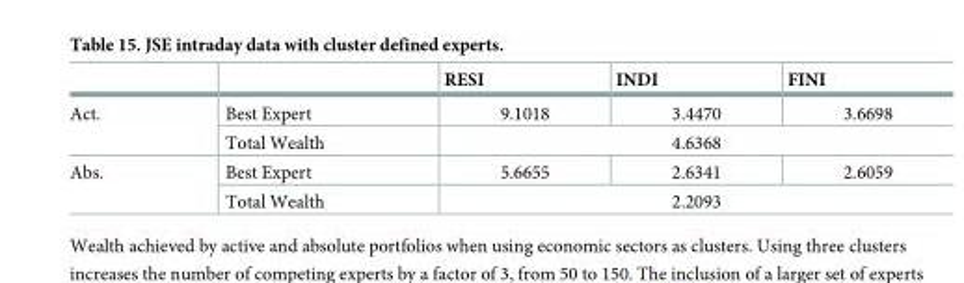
<table><thead><tr><td></td><td></td><td>RESI</td><td>INDI</td><td>FINI</td></tr></thead><tbody><tr><td rowspan="2">Act.</td><td>Best Expert</td><td>9.1018</td><td>3.4470</td><td>3.6698</td></tr><tr><td>Total Wealth</td><td colspan="3">4.6368</td></tr><tr><td rowspan="2">Abs.</td><td>Best Expert</td><td>5.6655</td><td>2.6341</td><td>2.6059</td></tr><tr><td>Total Wealth</td><td colspan="3">2.2093</td></tr></tbody></table>